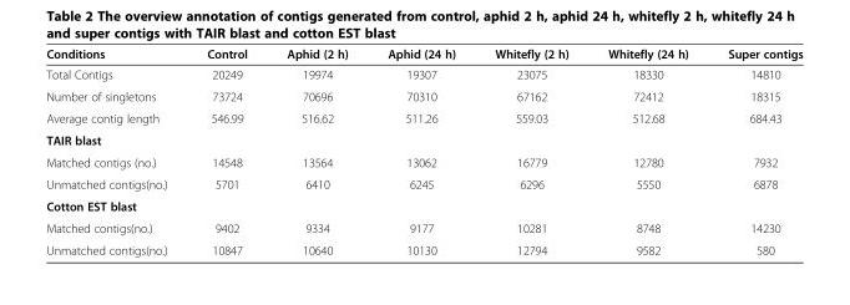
<table><thead><tr><td>Conditions</td><td>Control</td><td>Aphid (2 h)</td><td>Aphid (24 h)</td><td>Whitefly (2 h)</td><td>Whitefly (24 h)</td><td>Super contigs</td></tr></thead><tbody><tr><td>Total Contigs</td><td>20249</td><td>19974</td><td>19307</td><td>23075</td><td>18330</td><td>14810</td></tr><tr><td>Number of singletons</td><td>73724</td><td>70696</td><td>70310</td><td>67162</td><td>72412</td><td>18315</td></tr><tr><td>Average contig length</td><td>546.99</td><td>516.62</td><td>511.26</td><td>559.03</td><td>512.68</td><td>684.43</td></tr><tr><td colspan="7">TAIR blast</td></tr><tr><td>Matched contigs (no.)</td><td>14548</td><td>13564</td><td>13062</td><td>16779</td><td>12780</td><td>7932</td></tr><tr><td>Unmatched contigs(no.)</td><td>5701</td><td>6410</td><td>6245</td><td>6296</td><td>5550</td><td>6878</td></tr><tr><td colspan="7">Cotton EST blast</td></tr><tr><td>Matched contigs(no.)</td><td>9402</td><td>9334</td><td>9177</td><td>10281</td><td>8748</td><td>14230</td></tr><tr><td>Unmatched contigs(no.)</td><td>10847</td><td>10640</td><td>10130</td><td>12794</td><td>9582</td><td>580</td></tr></tbody></table>